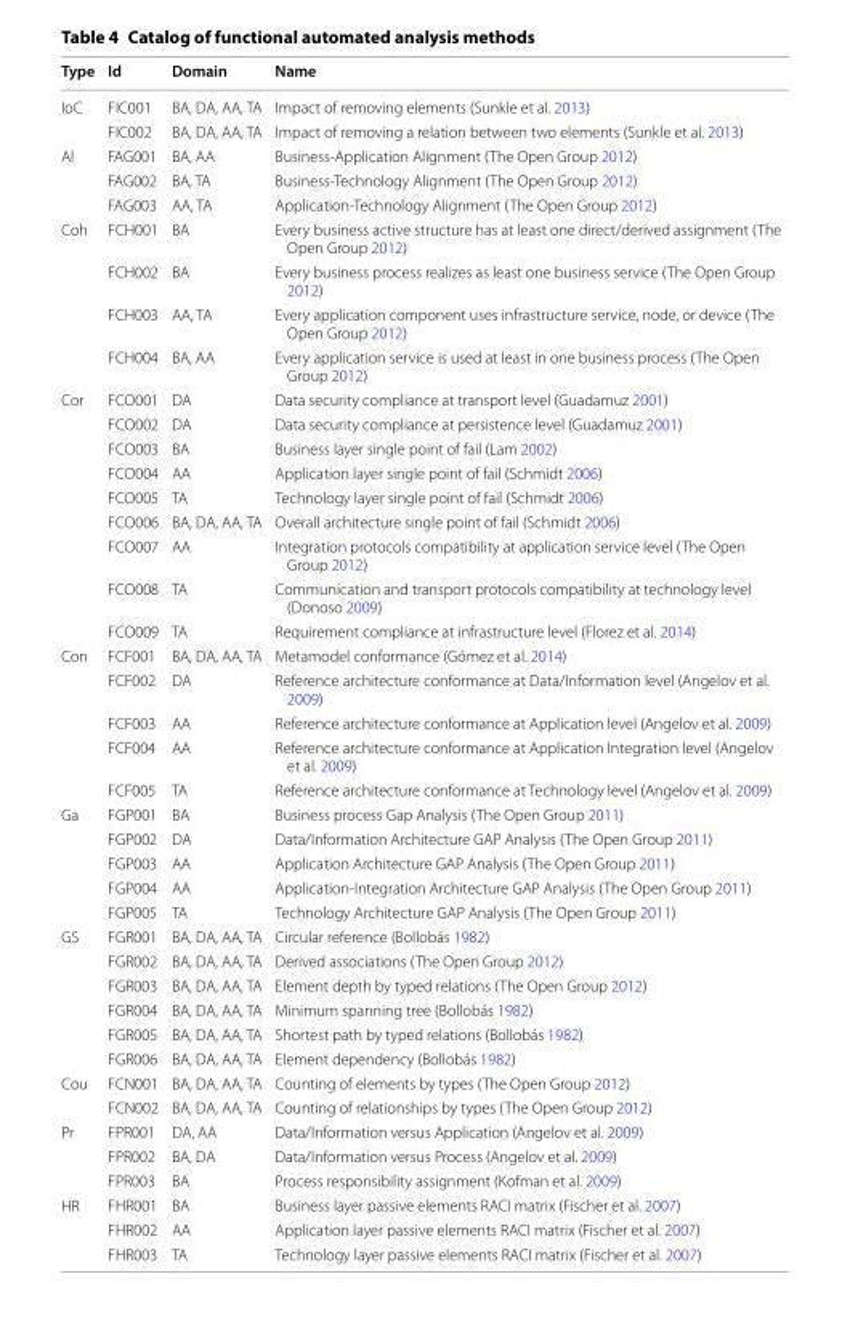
<table><thead><tr><td>Type</td><td>Id</td><td>Domain</td><td>Name</td></tr></thead><tbody><tr><td rowspan="2">IoC</td><td>FIC001</td><td>BA, DA, AA, TA</td><td>Impact of removing elements (Sunkle et al. 2013)</td></tr><tr><td>FIC002</td><td>BA, DA, AA, TA</td><td>Impact of removing a relation between two elements (Sunkle et al. 2013)</td></tr><tr><td rowspan="3">Al</td><td>FAG001</td><td>BA, AA</td><td>Business-Application Alignment (The Open Group 2012)</td></tr><tr><td>FAG002</td><td>BA, TA</td><td>Business-Technology Alignment (The Open Group 2012)</td></tr><tr><td>FAG003</td><td>AA, TA</td><td>Application-Technology Alignment (The Open Group 2012)</td></tr><tr><td rowspan="4">Coh</td><td>FCH001</td><td>BA</td><td>Every business active structure has at least one direct/derived assignment (The Open Group 2012)</td></tr><tr><td>FCH002</td><td>BA</td><td>Every business process realizes as least one business service (The Open Group 2012)</td></tr><tr><td>FCH003</td><td>AA, TA</td><td>Every application component uses infrastructure service, node, or device (The Open Group 2012)</td></tr><tr><td>FCH004</td><td>BA, AA</td><td>Every application service is used at least in one business process (The Open Group 2012)</td></tr><tr><td rowspan="9">Cor</td><td>FCO001</td><td>DA</td><td>Data security compliance at transport level (Guadamuz 2001)</td></tr><tr><td>FCO002</td><td>DA</td><td>Data security compliance at persistence level (Guadamuz 2001)</td></tr><tr><td>FCO003</td><td>BA</td><td>Business layer single point of fail (Lam 2002)</td></tr><tr><td>FCO004</td><td>AA</td><td>Application layer single point of fail (Schmidt 2006)</td></tr><tr><td>FCO005</td><td>TA</td><td>Technology layer single point of fail (Schmidt 2006)</td></tr><tr><td>FCO006</td><td>BA, DA, AA, TA</td><td>Overall architecture single point of fail (Schmidt 2006)</td></tr><tr><td>FCO007</td><td>AA</td><td>Integration protocols compatibility at application service level (The Open Group 2012)</td></tr><tr><td>FCO008</td><td>TA</td><td>Communication and transport protocols compatibility at technology level (Donoso 2009)</td></tr><tr><td>FCO009</td><td>TA</td><td>Requirement compliance at infrastructure level (Florez et al. 2014)</td></tr><tr><td rowspan="5">Con</td><td>FCF001</td><td>BA, DA, AA, TA</td><td>Metamodel conformance (Gómez et al. 2014)</td></tr><tr><td>FCF002</td><td>DA</td><td>Reference architecture conformance at Data/Information level (Angelov et al. 2009)</td></tr><tr><td>FCF003</td><td>AA</td><td>Reference architecture conformance at Application level (Angelov et al. 2009)</td></tr><tr><td>FCF004</td><td>AA</td><td>Reference architecture conformance at Application Integration level (Angelov et al. 2009)</td></tr><tr><td>FCF005</td><td>TA</td><td>Reference architecture conformance at Technology level (Angelov et al. 2009)</td></tr><tr><td rowspan="5">Ga</td><td>FGP001</td><td>BA</td><td>Business process Gap Analysis (The Open Group 2011)</td></tr><tr><td>FGP002</td><td>DA</td><td>Data/Information Architecture GAP Analysis (The Open Group 2011)</td></tr><tr><td>FGP003</td><td>AA</td><td>Application Architecture GAP Analysis (The Open Group 2011)</td></tr><tr><td>FGP004</td><td>AA</td><td>Application-Integration Architecture GAP Analysis (The Open Group 2011)</td></tr><tr><td>FGP005</td><td>TA</td><td>Technology Architecture GAP Analysis (The Open Group 2011)</td></tr><tr><td rowspan="6">GS</td><td>FGR001</td><td>BA, DA, AA, TA</td><td>Circular reference (Bollobás 1982)</td></tr><tr><td>FGR002</td><td>BA, DA, AA, TA</td><td>Derived associations (The Open Group 2012)</td></tr><tr><td>FGR003</td><td>BA, DA, AA, TA</td><td>Element depth by typed relations (The Open Group 2012)</td></tr><tr><td>FGR004</td><td>BA, DA, AA, TA</td><td>Minimum spanning tree (Bollobás 1982)</td></tr><tr><td>FGR005</td><td>BA, DA, AA, TA</td><td>Shortest path by typed relations (Bollobás 1982)</td></tr><tr><td>FGR006</td><td>BA, DA, AA, TA</td><td>Element dependency (Bollobás 1982)</td></tr><tr><td rowspan="2">Cou</td><td>FCN001</td><td>BA, DA, AA, TA</td><td>Counting of elements by types (The Open Group 2012)</td></tr><tr><td>FCN002</td><td>BA, DA, AA, TA</td><td>Counting of relationships by types (The Open Group 2012)</td></tr><tr><td rowspan="3">Pr</td><td>FPR001</td><td>DA, AA</td><td>Data/Information versus Application (Angelov et al. 2009)</td></tr><tr><td>FPR002</td><td>BA, DA</td><td>Data/Information versus Process (Angelov et al. 2009)</td></tr><tr><td>FPR003</td><td>BA</td><td>Process responsibility assignment (Kofman et al. 2009)</td></tr><tr><td rowspan="3">HR</td><td>FHR001</td><td>BA</td><td>Business layer passive elements RACI matrix (Fischer et al. 2007)</td></tr><tr><td>FHR002</td><td>AA</td><td>Application layer passive elements RACI matrix (Fischer et al. 2007)</td></tr><tr><td>FHR003</td><td>TA</td><td>Technology layer passive elements RACI matrix (Fischer et al. 2007)</td></tr></tbody></table>